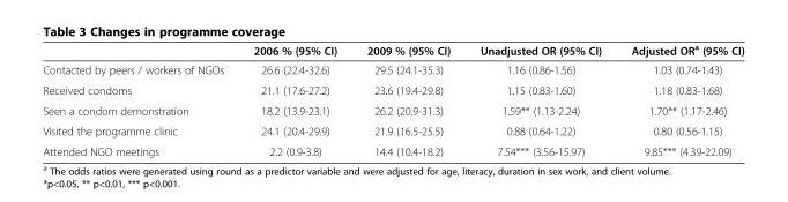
<table><thead><tr><td></td><td>2006 % (95% CI)</td><td>2009 % (95% CI)</td><td>Unadjusted OR (95% CI)</td><td>Adjusted OR<sup>a</sup> (95% CI)</td></tr></thead><tbody><tr><td>Contacted by peers / workers of NGOs</td><td>26.6 (22.4-32.6)</td><td>29.5 (24.1-35.3)</td><td>1.16 (0.86-1.56)</td><td>1.03 (0.74-1.43)</td></tr><tr><td>Received condoms</td><td>21.1 (17.6-27.2)</td><td>23.6 (19.4-29.8)</td><td>1.15 (0.83-1.60)</td><td>1.18 (0.83-1.68)</td></tr><tr><td>Seen a condom demonstration</td><td>18.2 (13.9-23.1)</td><td>26.2 (20.9-31.3)</td><td>1.59** (1.13-2.24)</td><td>1.70** (1.17-2.46)</td></tr><tr><td>Visited the programme clinic</td><td>24.1 (20.4-29.9)</td><td>21.9 (16.5-25.5)</td><td>0.88 (0.64-1.22)</td><td>0.80 (0.56-1.15)</td></tr><tr><td>Attended NGO meetings</td><td>2.2 (0.9-3.8)</td><td>14.4 (10.4-18.2)</td><td>7.54*** (3.56-15.97)</td><td>9.85*** (4.39-22.09)</td></tr></tbody></table>